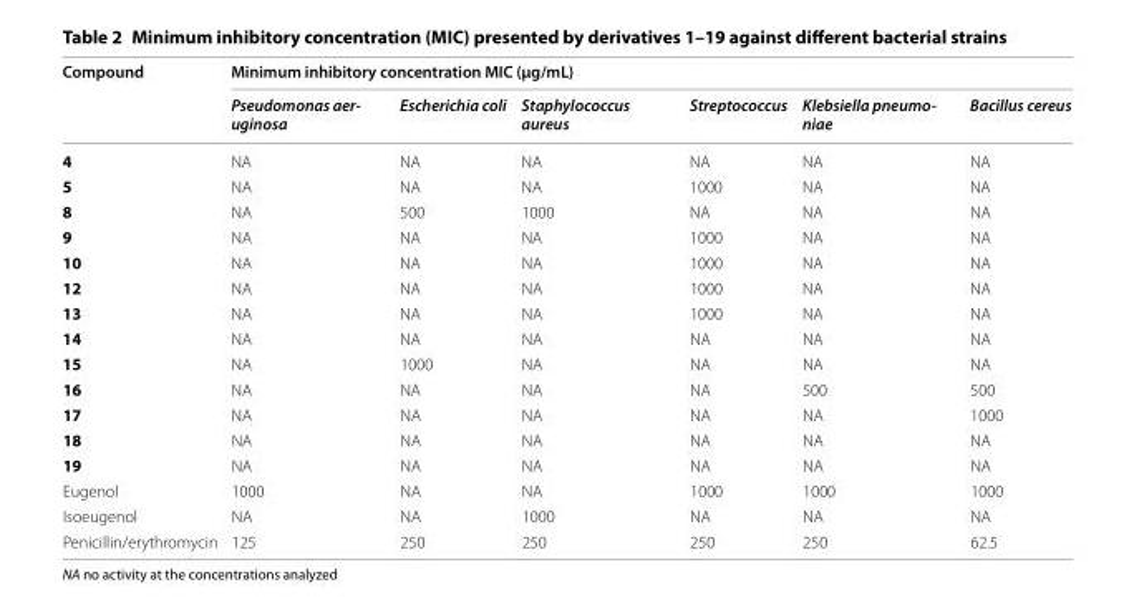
<table><thead><tr><td rowspan="2">Compound</td><td colspan="6">Minimum inhibitory concentration MIC (µg/mL)</td></tr><tr><td>Pseudomonas aer- uginosa</td><td>Escherichia coli</td><td>Staphylococcus aureus</td><td>Streptococcus</td><td>Klebsiella pneumo- niae</td><td>Bacillus cereus</td></tr></thead><tbody><tr><td>4</td><td>NA</td><td>NA</td><td>NA</td><td>NA</td><td>NA</td><td>NA</td></tr><tr><td>5</td><td>NA</td><td>NA</td><td>NA</td><td>1000</td><td>NA</td><td>NA</td></tr><tr><td>8</td><td>NA</td><td>500</td><td>1000</td><td>NA</td><td>NA</td><td>NA</td></tr><tr><td>9</td><td>NA</td><td>NA</td><td>NA</td><td>1000</td><td>NA</td><td>NA</td></tr><tr><td>10</td><td>NA</td><td>NA</td><td>NA</td><td>1000</td><td>NA</td><td>NA</td></tr><tr><td>12</td><td>NA</td><td>NA</td><td>NA</td><td>1000</td><td>NA</td><td>NA</td></tr><tr><td>13</td><td>NA</td><td>NA</td><td>NA</td><td>1000</td><td>NA</td><td>NA</td></tr><tr><td>14</td><td>NA</td><td>NA</td><td>NA</td><td>NA</td><td>NA</td><td>NA</td></tr><tr><td>15</td><td>NA</td><td>1000</td><td>NA</td><td>NA</td><td>NA</td><td>NA</td></tr><tr><td>16</td><td>NA</td><td>NA</td><td>NA</td><td>NA</td><td>500</td><td>500</td></tr><tr><td>17</td><td>NA</td><td>NA</td><td>NA</td><td>NA</td><td>NA</td><td>1000</td></tr><tr><td>18</td><td>NA</td><td>NA</td><td>NA</td><td>NA</td><td>NA</td><td>NA</td></tr><tr><td>19</td><td>NA</td><td>NA</td><td>NA</td><td>NA</td><td>NA</td><td>NA</td></tr><tr><td>Eugenol</td><td>1000</td><td>NA</td><td>NA</td><td>1000</td><td>1000</td><td>1000</td></tr><tr><td>Isoeugenol</td><td>NA</td><td>NA</td><td>1000</td><td>NA</td><td>NA</td><td>NA</td></tr><tr><td>Penicillin/erythromycin</td><td>125</td><td>250</td><td>250</td><td>250</td><td>250</td><td>62.5</td></tr></tbody></table>